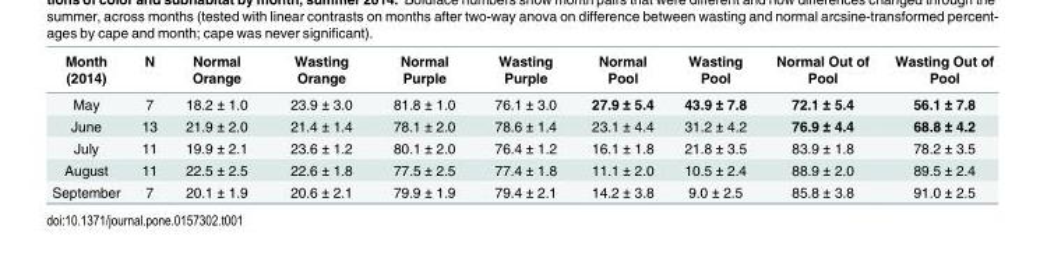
<table><thead><tr><td>Month (2014)</td><td>N</td><td>Normal Orange</td><td>Wasting Orange</td><td>Normal Purple</td><td>Wasting Purple</td><td>Normal Pool</td><td>Wasting Pool</td><td>Normal Out of Pool</td><td>Wasting Out of Pool</td></tr></thead><tbody><tr><td>May</td><td>7</td><td>18.2 ± 1.0</td><td>23.9 ± 3.0</td><td>81.8 ± 1.0</td><td>76.1 ± 3.0</td><td>27.9 ± 5.4</td><td>43.9 ± 7.8</td><td>72.1 ± 5.4</td><td>56.1 ± 7.8</td></tr><tr><td>June</td><td>13</td><td>21.9 ± 2.0</td><td>21.4 ± 1.4</td><td>78.1 ± 2.0</td><td>78.6 ± 1.4</td><td>23.1 ± 4.4</td><td>31.2 ± 4.2</td><td>76.9 ± 4.4</td><td>68.8 ± 4.2</td></tr><tr><td>July</td><td>11</td><td>19.9 ± 2.1</td><td>23.6 ± 1.2</td><td>80.1 ± 2.0</td><td>76.4 ± 1.2</td><td>16.1 ± 1.8</td><td>21.8 ± 3.5</td><td>83.9 ± 1.8</td><td>78.2 ± 3.5</td></tr><tr><td>August</td><td>11</td><td>22.5 ± 2.5</td><td>22.6 ± 1.8</td><td>77.5 ± 2.5</td><td>77.4 ± 1.8</td><td>11.1 ± 2.0</td><td>10.5 ± 2.4</td><td>88.9 ± 2.0</td><td>89.5 ± 2.4</td></tr><tr><td>September</td><td>7</td><td>20.1 ± 1.9</td><td>20.6 ± 2.1</td><td>79.9 ± 1.9</td><td>79.4 ± 2.1</td><td>14.2 ± 3.8</td><td>9.0 ± 2.5</td><td>85.8 ± 3.8</td><td>91.0 ± 2.5</td></tr></tbody></table>